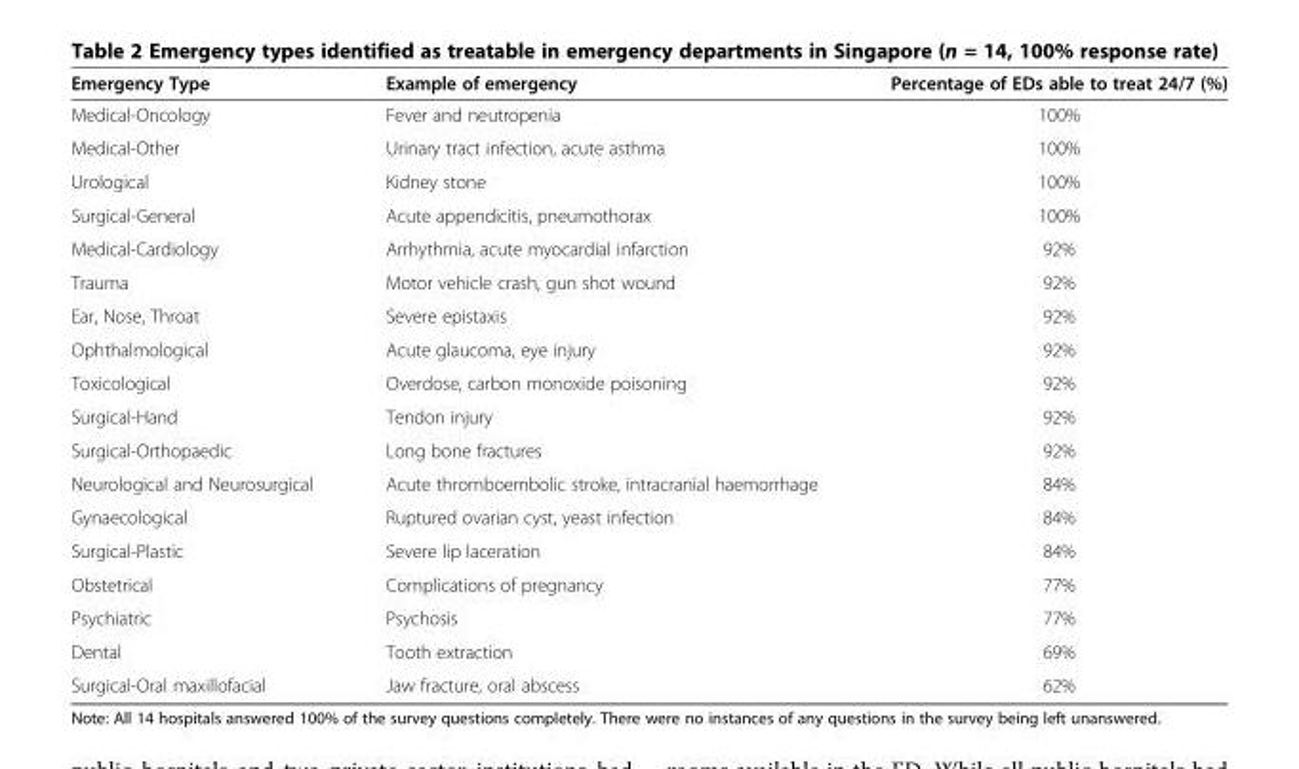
<table><thead><tr><td>Emergency Type</td><td>Example of emergency</td><td>Percentage of EDs able to treat 24/7 (%)</td></tr></thead><tbody><tr><td>Medical-Oncology</td><td>Fever and neutropenia</td><td>100%</td></tr><tr><td>Medical-Other</td><td>Urinary tract infection, acute asthma</td><td>100%</td></tr><tr><td>Urological</td><td>Kidney stone</td><td>100%</td></tr><tr><td>Surgical-General</td><td>Acute appendicitis, pneumothorax</td><td>100%</td></tr><tr><td>Medical-Cardiology</td><td>Arrhythmia, acute myocardial infarction</td><td>92%</td></tr><tr><td>Trauma</td><td>Motor vehicle crash, gun shot wound</td><td>92%</td></tr><tr><td>Ear, Nose, Throat</td><td>Severe epistaxis</td><td>92%</td></tr><tr><td>Ophthalmological</td><td>Acute glaucoma, eye injury</td><td>92%</td></tr><tr><td>Toxicological</td><td>Overdose, carbon monoxide poisoning</td><td>92%</td></tr><tr><td>Surgical-Hand</td><td>Tendon injury</td><td>92%</td></tr><tr><td>Surgical-Orthopaedic</td><td>Long bone fractures</td><td>92%</td></tr><tr><td>Neurological and Neurosurgical</td><td>Acute thromboembolic stroke, intracranial haemorrhage</td><td>84%</td></tr><tr><td>Gynaecological</td><td>Ruptured ovarian cyst, yeast infection</td><td>84%</td></tr><tr><td>Surgical-Plastic</td><td>Severe lip laceration</td><td>84%</td></tr><tr><td>Obstetrical</td><td>Complications of pregnancy</td><td>77%</td></tr><tr><td>Psychiatric</td><td>Psychosis</td><td>77%</td></tr><tr><td>Dental</td><td>Tooth extraction</td><td>69%</td></tr><tr><td>Surgical-Oral maxillofacial</td><td>Jaw fracture, oral abscess</td><td>62%</td></tr></tbody></table>